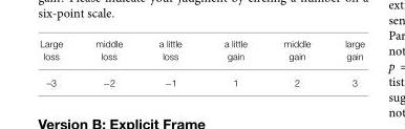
<table><thead><tr><td>Large loss</td><td>middle loss</td><td>a little loss</td><td>a little gain</td><td>middle gain</td><td>large gain</td></tr></thead><tbody><tr><td>–3</td><td>−2</td><td>−1</td><td>1</td><td>2</td><td>3</td></tr></tbody></table>